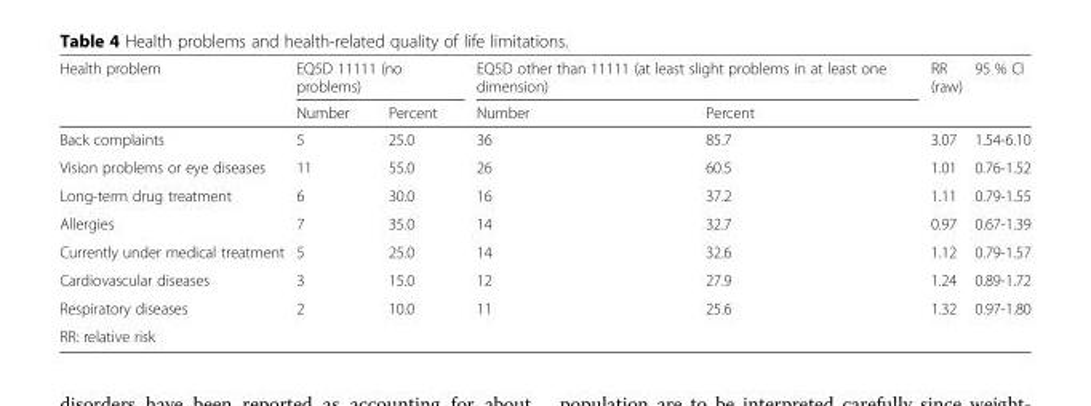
<table><thead><tr><td rowspan="2">Health problem</td><td colspan="2">EQ5D 11111 (no problems)</td><td colspan="2">EQ5D other than 11111 (at least slight problems in at least one dimension)</td><td rowspan="2">RR (raw)</td><td rowspan="2">95 % CI</td></tr><tr><td>Number</td><td>Percent</td><td>Number</td><td>Percent</td></tr></thead><tbody><tr><td>Back complaints</td><td>5</td><td>25.0</td><td>36</td><td>85.7</td><td>3.07</td><td>1.54-6.10</td></tr><tr><td>Vision problems or eye diseases</td><td>11</td><td>55.0</td><td>26</td><td>60.5</td><td>1.01</td><td>0.76-1.52</td></tr><tr><td>Long-term drug treatment</td><td>6</td><td>30.0</td><td>16</td><td>37.2</td><td>1.11</td><td>0.79-1.55</td></tr><tr><td>Allergies</td><td>7</td><td>35.0</td><td>14</td><td>32.7</td><td>0.97</td><td>0.67-1.39</td></tr><tr><td>Currently under medical treatment</td><td>5</td><td>25.0</td><td>14</td><td>32.6</td><td>1.12</td><td>0.79-1.57</td></tr><tr><td>Cardiovascular diseases</td><td>3</td><td>15.0</td><td>12</td><td>27.9</td><td>1.24</td><td>0.89-1.72</td></tr><tr><td>Respiratory diseases</td><td>2</td><td>10.0</td><td>11</td><td>25.6</td><td>1.32</td><td>0.97-1.80</td></tr><tr><td>RR: relative risk</td><td></td><td></td><td></td><td></td><td></td><td></td></tr></tbody></table>